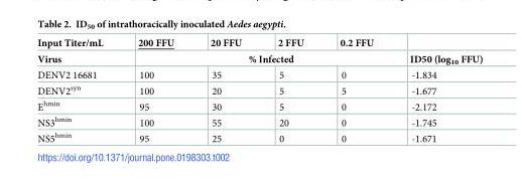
<table><thead><tr><td rowspan="2">Input Titer/mL Virus</td><td>200 FFU</td><td>20 FFU</td><td>2 FFU</td><td>0.2 FFU</td><td rowspan="2">ID50 (log<sub>10</sub> FFU)</td></tr><tr><td colspan="4">% Infected</td></tr></thead><tbody><tr><td>DENV2 16681</td><td>100</td><td>35</td><td>5</td><td>0</td><td>-1.834</td></tr><tr><td>DENV2<sup>syn</sup></td><td>100</td><td>20</td><td>5</td><td>5</td><td>-1.677</td></tr><tr><td>E<sup>hmin</sup></td><td>95</td><td>30</td><td>5</td><td>0</td><td>-2.172</td></tr><tr><td>NS3<sup>hmin</sup></td><td>100</td><td>55</td><td>20</td><td>0</td><td>-1.745</td></tr><tr><td>NS5<sup>hmin</sup></td><td>95</td><td>25</td><td>0</td><td>0</td><td>-1.671</td></tr></tbody></table>